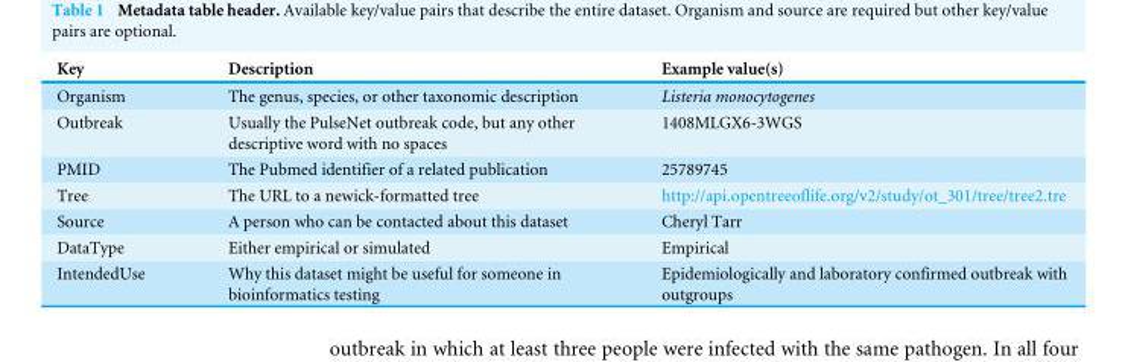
<table><thead><tr><td>Key</td><td>Description</td><td>Example value(s)</td></tr></thead><tbody><tr><td>Organism</td><td>The genus, species, or other taxonomic description</td><td>Listeria monocytogenes</td></tr><tr><td>Outbreak</td><td>Usually the PulseNet outbreak code, but any other descriptive word with no spaces</td><td>1408MLGX6-3WGS</td></tr><tr><td>PMID</td><td>The Pubmed identifier of a related publication</td><td>25789745</td></tr><tr><td>Tree</td><td>The URL to a newick-formatted tree</td><td>http://api.opentreeoflife.org/v2/study/ot_301/tree/tree2.tre</td></tr><tr><td>Source</td><td>A person who can be contacted about this dataset</td><td>Cheryl Tarr</td></tr><tr><td>DataType</td><td>Either empirical or simulated</td><td>Empirical</td></tr><tr><td>IntendedUse</td><td>Why this dataset might be useful for someone in bioinformatics testing</td><td>Epidemiologically and laboratory confirmed outbreak with outgroups</td></tr></tbody></table>